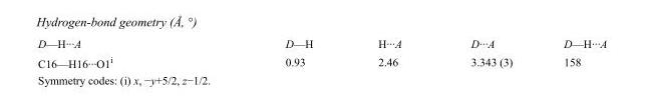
<table><tbody><tr><td>D—H···A</td><td>D—H</td><td>H···A</td><td>D···A</td><td>D—H···A</td></tr><tr><td>C16—H16···O1<sup>i</sup></td><td>0.93</td><td>2.46</td><td>3.343 (3)</td><td>158</td></tr></tbody></table>